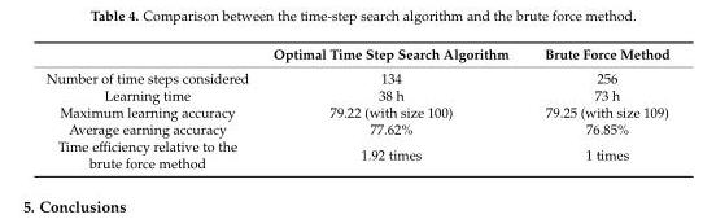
<table><thead><tr><td></td><td>Optimal Time Step Search Algorithm</td><td>Brute Force Method</td></tr></thead><tbody><tr><td>Number of time steps considered</td><td>134</td><td>256</td></tr><tr><td>Learning time</td><td>38 h</td><td>73 h</td></tr><tr><td>Maximum learning accuracy</td><td>79.22 (with size 100)</td><td>79.25 (with size 109)</td></tr><tr><td>Average earning accuracy</td><td>77.62%</td><td>76.85%</td></tr><tr><td>Time efficiency relative to the brute force method</td><td>1.92 times</td><td>1 times</td></tr></tbody></table>